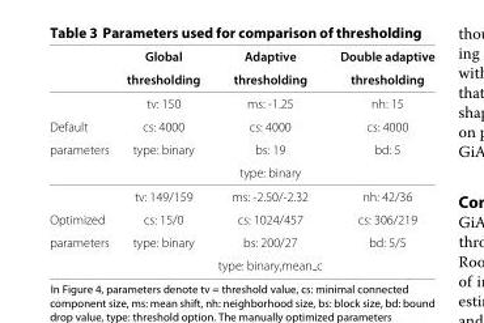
<table><thead><tr><td rowspan="2"></td><td rowspan="2">Global thresholding</td><td rowspan="2">Adaptive thresholding</td><td rowspan="2">Double adaptive thresholding</td></tr><tr></tr></thead><tbody><tr><td></td><td>tv: 150</td><td>ms: -1.25</td><td>nh: 15</td></tr><tr><td>Default</td><td>cs: 4000</td><td>cs: 4000</td><td>cs: 4000</td></tr><tr><td rowspan="3">parameters</td><td>type: binary</td><td>bs: 19</td><td>bd: 5</td></tr><tr><td></td><td>type: binary</td><td></td></tr><tr><td>tv: 149/159</td><td>ms: -2.50/-2.32</td><td>nh: 42/36</td></tr><tr><td>Optimized</td><td>cs: 15/0</td><td>cs: 1024/457</td><td>cs: 306/219</td></tr><tr><td rowspan="2">parameters</td><td>type: binary</td><td>bs: 200/27</td><td>bd: 5/5</td></tr><tr><td></td><td>type: binary,mean c</td><td></td></tr></tbody></table>